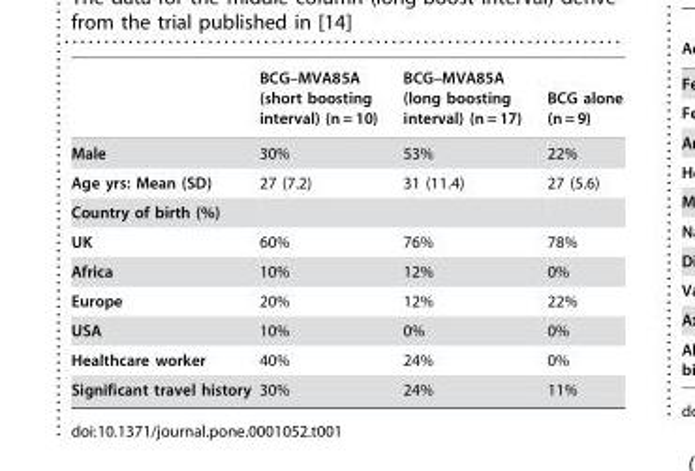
<table><thead><tr><td></td><td>BCG–MVA85A (short boosting interval) (n = 10)</td><td>BCG–MVA85A (long boosting interval) (n = 17)</td><td>BCG alone (n = 9)</td></tr></thead><tbody><tr><td>Male</td><td>30%</td><td>53%</td><td>22%</td></tr><tr><td>Age yrs: Mean (SD)</td><td>27 (7.2)</td><td>31 (11.4)</td><td>27 (5.6)</td></tr><tr><td colspan="4">Country of birth (%)</td></tr><tr><td>UK</td><td>60%</td><td>76%</td><td>78%</td></tr><tr><td>Africa</td><td>10%</td><td>12%</td><td>0%</td></tr><tr><td>Europe</td><td>20%</td><td>12%</td><td>22%</td></tr><tr><td>USA</td><td>10%</td><td>0%</td><td>0%</td></tr><tr><td>Healthcare worker</td><td>40%</td><td>24%</td><td>0%</td></tr><tr><td>Significant travel history</td><td>30%</td><td>24%</td><td>11%</td></tr></tbody></table>